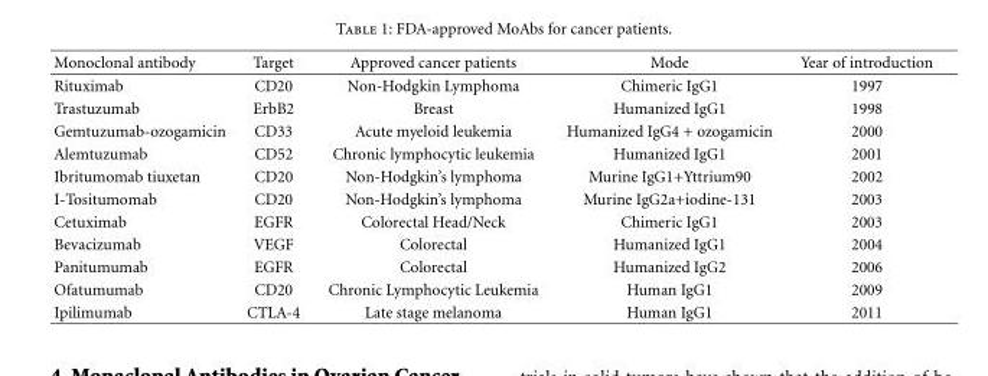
<table><thead><tr><td>Monoclonal antibody</td><td>Target</td><td>Approved cancer patients</td><td>Mode</td><td>Year of introduction</td></tr></thead><tbody><tr><td>Rituximab</td><td>CD20</td><td>Non-Hodgkin Lymphoma</td><td>Chimeric IgG1</td><td>1997</td></tr><tr><td>Trastuzumab</td><td>ErbB2</td><td>Breast</td><td>Humanized IgG1</td><td>1998</td></tr><tr><td>Gemtuzumab-ozogamicin</td><td>CD33</td><td>Acute myeloid leukemia</td><td>Humanized IgG4 + ozogamicin</td><td>2000</td></tr><tr><td>Alemtuzumab</td><td>CD52</td><td>Chronic lymphocytic leukemia</td><td>Humanized IgG1</td><td>2001</td></tr><tr><td>Ibritumomab tiuxetan</td><td>CD20</td><td>Non-Hodgkin’s lymphoma</td><td>Murine IgG1+Yttrium90</td><td>2002</td></tr><tr><td>I-Tositumomab</td><td>CD20</td><td>Non-Hodgkin’s lymphoma</td><td>Murine IgG2a+iodine-131</td><td>2003</td></tr><tr><td>Cetuximab</td><td>EGFR</td><td>Colorectal Head/Neck</td><td>Chimeric IgG1</td><td>2003</td></tr><tr><td>Bevacizumab</td><td>VEGF</td><td>Colorectal</td><td>Humanized IgG1</td><td>2004</td></tr><tr><td>Panitumumab</td><td>EGFR</td><td>Colorectal</td><td>Humanized IgG2</td><td>2006</td></tr><tr><td>Ofatumumab</td><td>CD20</td><td>Chronic Lymphocytic Leukemia</td><td>Human IgG1</td><td>2009</td></tr><tr><td>Ipilimumab</td><td>CTLA-4</td><td>Late stage melanoma</td><td>Human IgG1</td><td>2011</td></tr></tbody></table>